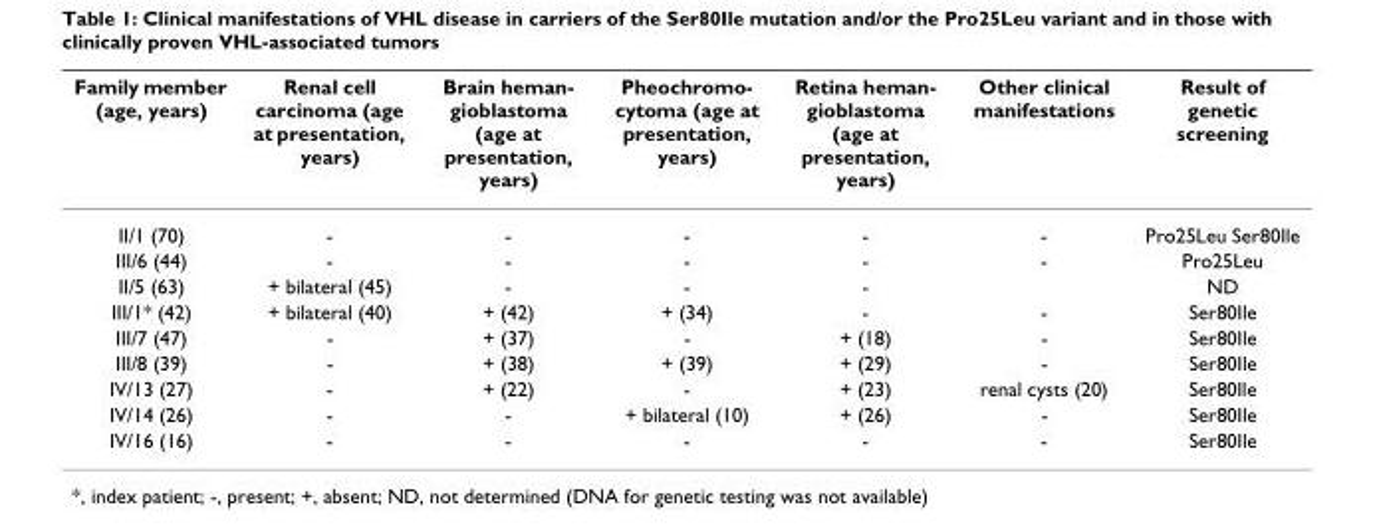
<table><thead><tr><td>Family member (age, years)</td><td>Renal cell carcinoma (age at presentation, years)</td><td>Brain heman- gioblastoma (age at presentation, years)</td><td>Pheochromo- cytoma (age at presentation, years)</td><td>Retina heman- gioblastoma (age at presentation, years)</td><td>Other clinical manifestations</td><td>Result of genetic screening</td></tr></thead><tbody><tr><td>II/1 (70)</td><td>-</td><td>-</td><td>-</td><td>-</td><td>-</td><td>Pro25Leu Ser80Ile</td></tr><tr><td>III/6 (44)</td><td>-</td><td>-</td><td>-</td><td>-</td><td>-</td><td>Pro25Leu</td></tr><tr><td>II/5 (63)</td><td>+ bilateral (45)</td><td>-</td><td>-</td><td>-</td><td></td><td>ND</td></tr><tr><td>III/1* (42)</td><td>+ bilateral (40)</td><td>+ (42)</td><td>+ (34)</td><td>-</td><td>-</td><td>Ser80Ile</td></tr><tr><td>III/7 (47)</td><td>-</td><td>+ (37)</td><td>-</td><td>+ (18)</td><td>-</td><td>Ser80Ile</td></tr><tr><td>III/8 (39)</td><td>-</td><td>+ (38)</td><td>+ (39)</td><td>+ (29)</td><td>-</td><td>Ser80Ile</td></tr><tr><td>IV/13 (27)</td><td>-</td><td>+ (22)</td><td>-</td><td>+ (23)</td><td>renal cysts (20)</td><td>Ser80Ile</td></tr><tr><td>IV/14 (26)</td><td>-</td><td>-</td><td>+ bilateral (10)</td><td>+ (26)</td><td>-</td><td>Ser80Ile</td></tr><tr><td>IV/16 (16)</td><td>-</td><td>-</td><td>-</td><td>-</td><td>-</td><td>Ser80Ile</td></tr></tbody></table>